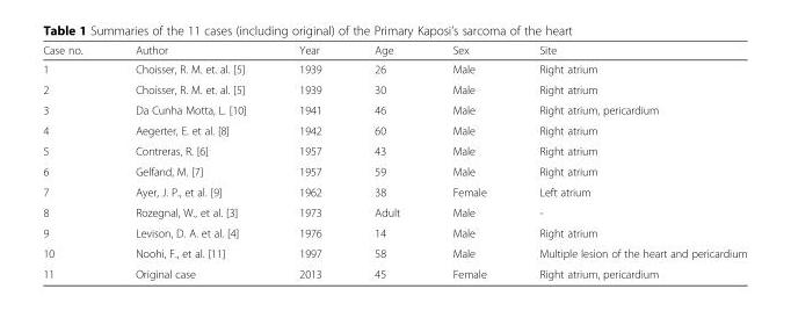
<table><thead><tr><td>Case no.</td><td>Author</td><td>Year</td><td>Age</td><td>Sex</td><td>Site</td></tr></thead><tbody><tr><td>1</td><td>Choisser, R. M. et. al. [5]</td><td>1939</td><td>26</td><td>Male</td><td>Right atrium</td></tr><tr><td>2</td><td>Choisser, R. M. et. al. [5]</td><td>1939</td><td>30</td><td>Male</td><td>Right atrium</td></tr><tr><td>3</td><td>Da Cunha Motta, L. [10]</td><td>1941</td><td>46</td><td>Male</td><td>Right atrium, pericardium</td></tr><tr><td>4</td><td>Aegerter, E. et al. [8]</td><td>1942</td><td>60</td><td>Male</td><td>Right atrium</td></tr><tr><td>5</td><td>Contreras, R. [6]</td><td>1957</td><td>43</td><td>Male</td><td>Right atrium</td></tr><tr><td>6</td><td>Gelfand, M. [7]</td><td>1957</td><td>59</td><td>Male</td><td>Right atrium</td></tr><tr><td>7</td><td>Ayer, J. P., et al. [9]</td><td>1962</td><td>38</td><td>Female</td><td>Left atrium</td></tr><tr><td>8</td><td>Rozegnal, W., et al. [3]</td><td>1973</td><td>Adult</td><td>Male</td><td>-</td></tr><tr><td>9</td><td>Levison, D. A. et al. [4]</td><td>1976</td><td>14</td><td>Male</td><td>Right atrium</td></tr><tr><td>10</td><td>Noohi, F., et al. [11]</td><td>1997</td><td>58</td><td>Male</td><td>Multiple lesion of the heart and pericardium</td></tr><tr><td>11</td><td>Original case</td><td>2013</td><td>45</td><td>Female</td><td>Right atrium, pericardium</td></tr></tbody></table>